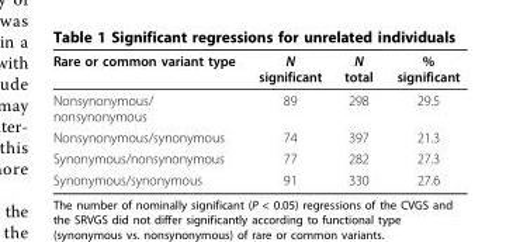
<table><thead><tr><td>Rare or common variant type</td><td>N significant</td><td>N total</td><td>% significant</td></tr></thead><tbody><tr><td>Nonsynonymous/ nonsynonymous</td><td>89</td><td>298</td><td>29.5</td></tr><tr><td>Nonsynonymous/synonymous</td><td>74</td><td>397</td><td>21.3</td></tr><tr><td>Synonymous/nonsynonymous</td><td>77</td><td>282</td><td>27.3</td></tr><tr><td>Synonymous/synonymous</td><td>91</td><td>330</td><td>27.6</td></tr></tbody></table>